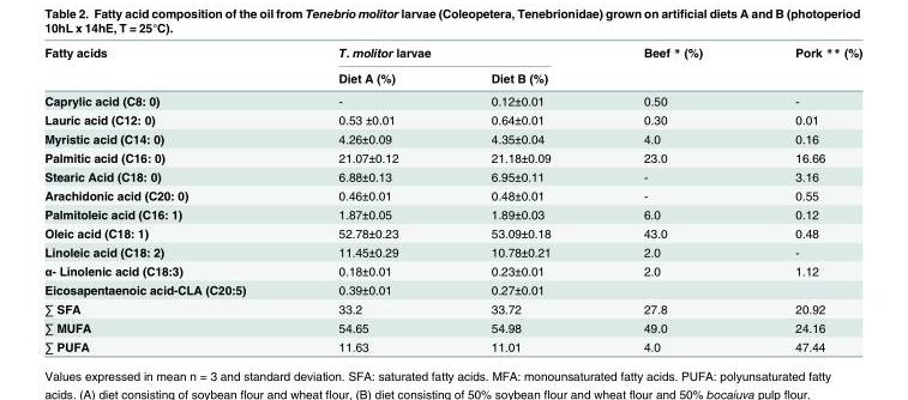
<table><thead><tr><td rowspan="2">Fatty acids</td><td colspan="2">T. molitor larvae</td><td rowspan="2">Beef * (%)</td><td rowspan="2">Pork ** (%)</td></tr><tr><td>Diet A (%)</td><td>Diet B (%)</td></tr></thead><tbody><tr><td>Caprylic acid (C8: 0)</td><td>-</td><td>0.12±0.01</td><td>0.50</td><td>-</td></tr><tr><td>Lauric acid (C12: 0)</td><td>0.53 ±0.01</td><td>0.64±0.01</td><td>0.30</td><td>0.01</td></tr><tr><td>Myristic acid (C14: 0)</td><td>4.26±0.09</td><td>4.35±0.04</td><td>4.0</td><td>0.16</td></tr><tr><td>Palmitic acid (C16: 0)</td><td>21.07±0.12</td><td>21.18±0.09</td><td>23.0</td><td>16.66</td></tr><tr><td>Stearic Acid (C18: 0)</td><td>6.88±0.13</td><td>6.95±0.11</td><td>-</td><td>3.16</td></tr><tr><td>Arachidonic acid (C20: 0)</td><td>0.46±0.01</td><td>0.48±0.01</td><td>-</td><td>0.55</td></tr><tr><td>Palmitoleic acid (C16: 1)</td><td>1.87±0.05</td><td>1.89±0.03</td><td>6.0</td><td>0.12</td></tr><tr><td>Oleic acid (C18: 1)</td><td>52.78±0.23</td><td>53.09±0.18</td><td>43.0</td><td>0.48</td></tr><tr><td>Linoleic acid (C18: 2)</td><td>11.45±0.29</td><td>10.78±0.21</td><td>2.0</td><td>-</td></tr><tr><td>α- Linolenic acid (C18:3)</td><td>0.18±0.01</td><td>0.23±0.01</td><td>2.0</td><td>1.12</td></tr><tr><td>Eicosapentaenoic acid-CLA (C20:5)</td><td>0.39±0.01</td><td>0.27±0.01</td><td></td><td></td></tr><tr><td>∑ SFA</td><td>33.2</td><td>33.72</td><td>27.8</td><td>20.92</td></tr><tr><td>∑ MUFA</td><td>54.65</td><td>54.98</td><td>49.0</td><td>24.16</td></tr><tr><td>∑ PUFA</td><td>11.63</td><td>11.01</td><td>4.0</td><td>47.44</td></tr></tbody></table>